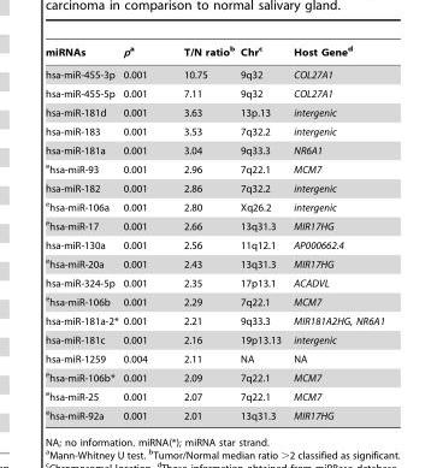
<table><thead><tr><td>miRNAs</td><td>pa</td><td>T/N ratio<sup>b</sup></td><td>Chr<sup>c</sup></td><td>Host Gene<sup>d</sup></td></tr></thead><tbody><tr><td>hsa-miR-455-3p</td><td>0.001</td><td>10.75</td><td>9q32</td><td>COL27A1</td></tr><tr><td>hsa-miR-455-5p</td><td>0.001</td><td>7.11</td><td>9q32</td><td>COL27A1</td></tr><tr><td>hsa-miR-181d</td><td>0.001</td><td>3.63</td><td>13p.13</td><td>intergenic</td></tr><tr><td>hsa-miR-183</td><td>0.001</td><td>3.53</td><td>7q32.2</td><td>intergenic</td></tr><tr><td>hsa-miR-181a</td><td>0.001</td><td>3.04</td><td>9q33.3</td><td>NR6A1</td></tr><tr><td><sup>e</sup>hsa-miR-93</td><td>0.001</td><td>2.96</td><td>7q22.1</td><td>MCM7</td></tr><tr><td>hsa-miR-182</td><td>0.001</td><td>2.86</td><td>7q32.2</td><td>intergenic</td></tr><tr><td><sup>e</sup>hsa-miR-106a</td><td>0.001</td><td>2.80</td><td>Xq26.2</td><td>intergenic</td></tr><tr><td><sup>e</sup>hsa-miR-17</td><td>0.001</td><td>2.66</td><td>13q31.3</td><td>MIR17HG</td></tr><tr><td>hsa-miR-130a</td><td>0.001</td><td>2.56</td><td>11q12.1</td><td>AP000662.4</td></tr><tr><td><sup>e</sup>hsa-miR-20a</td><td>0.001</td><td>2.43</td><td>13q31.3</td><td>MIR17HG</td></tr><tr><td>hsa-miR-324-5p</td><td>0.001</td><td>2.35</td><td>17p13.1</td><td>ACADVL</td></tr><tr><td><sup>e</sup>hsa-miR-106b</td><td>0.001</td><td>2.29</td><td>7q22.1</td><td>MCM7</td></tr><tr><td>hsa-miR-181a-2*</td><td>0.001</td><td>2.21</td><td>9q33.3</td><td>MIR181A2HG, NR6A1</td></tr><tr><td>hsa-miR-181c</td><td>0.001</td><td>2.16</td><td>19p13.13</td><td>intergenic</td></tr><tr><td>hsa-miR-1259</td><td>0.004</td><td>2.11</td><td>NA</td><td>NA</td></tr><tr><td><sup>e</sup>hsa-miR-106b*</td><td>0.001</td><td>2.09</td><td>7q22.1</td><td>MCM7</td></tr><tr><td><sup>e</sup>hsa-miR-25</td><td>0.001</td><td>2.07</td><td>7q22.1</td><td>MCM7</td></tr><tr><td><sup>e</sup>hsa-miR-92a</td><td>0.001</td><td>2.01</td><td>13q31.3</td><td>MIR17HG</td></tr></tbody></table>